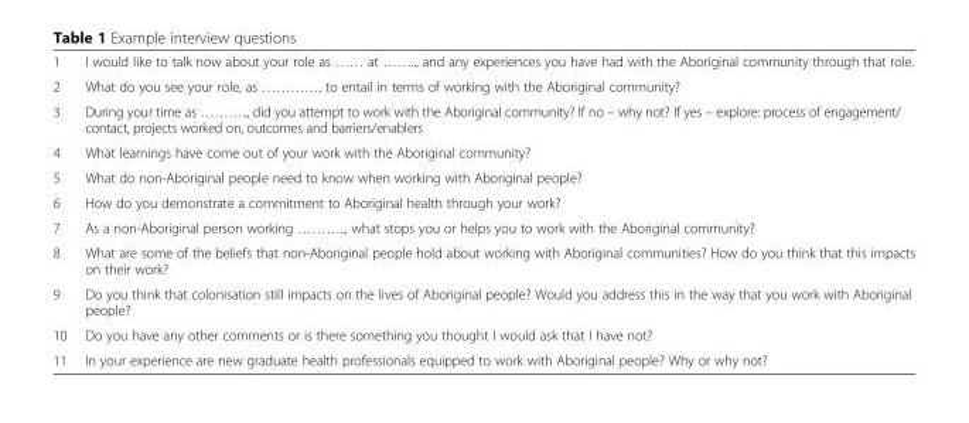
<table><tbody><tr><td>1</td><td>I would like to talk now about your role as …… at …….., and any experiences you have had with the Aboriginal community through that role.</td></tr><tr><td>2</td><td>What do you see your role, as …………, to entail in terms of working with the Aboriginal community?</td></tr><tr><td>3</td><td>During your time as ……….., did you attempt to work with the Aboriginal community? If no – why not? If yes – explore: process of engagement/ contact, projects worked on, outcomes and barriers/enablers</td></tr><tr><td>4</td><td>What learnings have come out of your work with the Aboriginal community?</td></tr><tr><td>5</td><td>What do non-Aboriginal people need to know when working with Aboriginal people?</td></tr><tr><td>6</td><td>How do you demonstrate a commitment to Aboriginal health through your work?</td></tr><tr><td>7</td><td>As a non-Aboriginal person working ……….., what stops you or helps you to work with the Aboriginal community?</td></tr><tr><td>8</td><td>What are some of the beliefs that non-Aboriginal people hold about working with Aboriginal communities? How do you think that this impacts on their work?</td></tr><tr><td>9</td><td>Do you think that colonisation still impacts on the lives of Aboriginal people? Would you address this in the way that you work with Aboriginal people?</td></tr><tr><td>10</td><td>Do you have any other comments or is there something you thought I would ask that I have not?</td></tr><tr><td>11</td><td>In your experience are new graduate health professionals equipped to work with Aboriginal people? Why or why not?</td></tr></tbody></table>